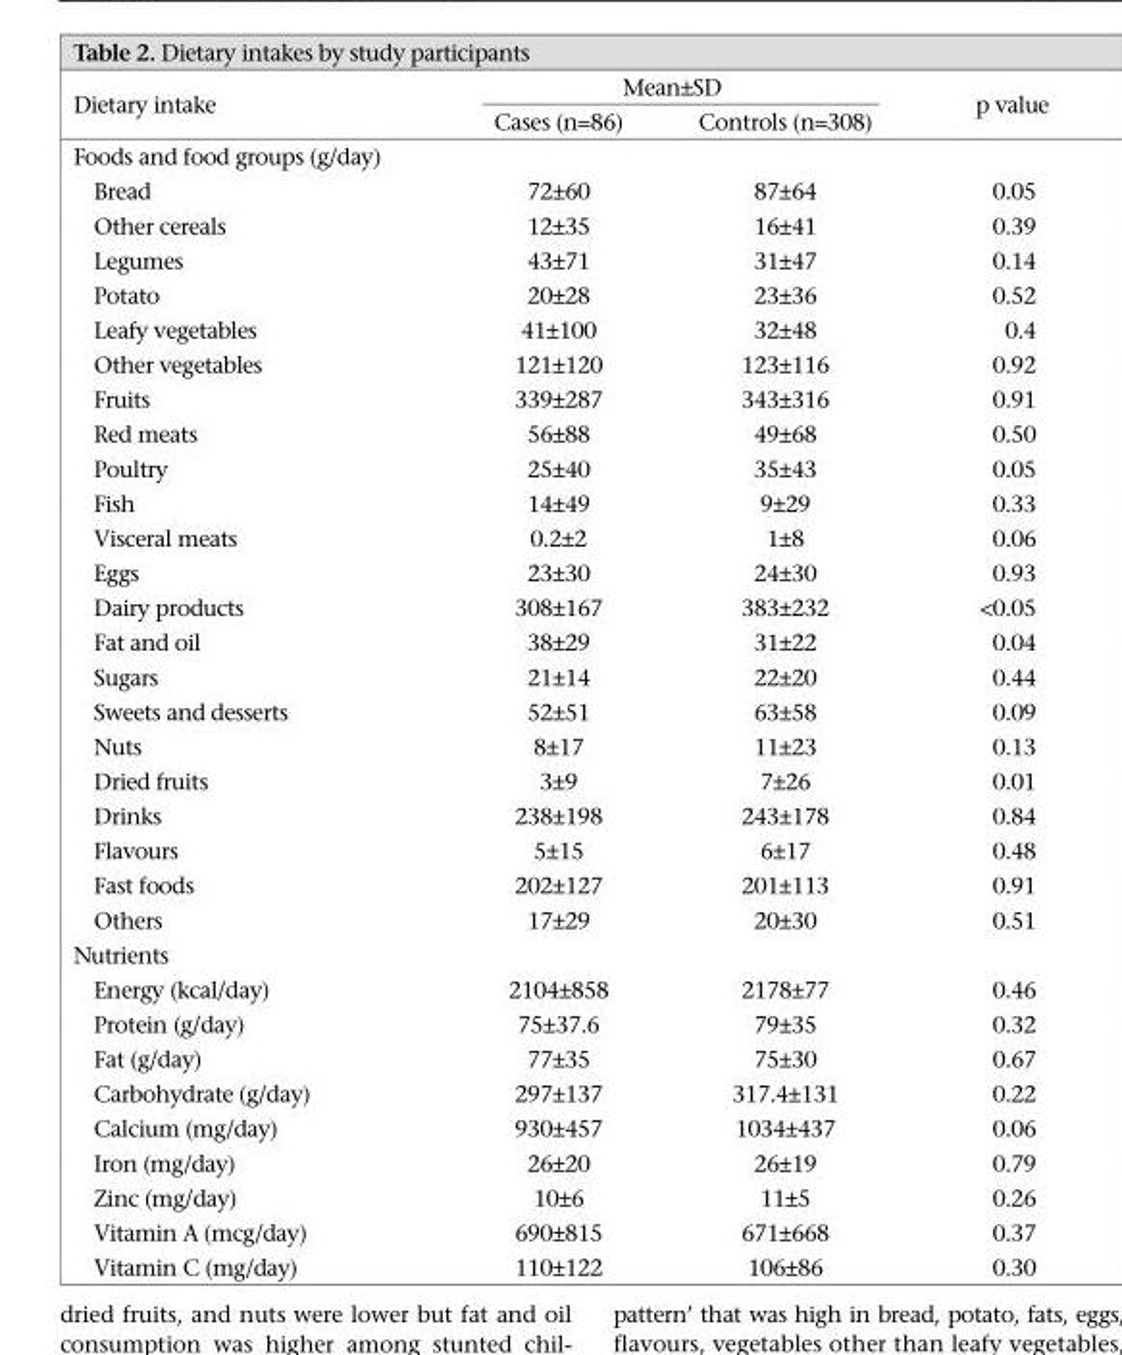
<table><thead><tr><td rowspan="2">Dietary intake</td><td colspan="2">Mean±SD</td><td rowspan="2">p value</td></tr><tr><td>Cases (n=86)</td><td>Controls (n=308)</td></tr></thead><tbody><tr><td colspan="4">Foods and food groups (g/day)</td></tr><tr><td>Bread</td><td>72±60</td><td>87±64</td><td>0.05</td></tr><tr><td>Other cereals</td><td>12±35</td><td>16±41</td><td>0.39</td></tr><tr><td>Legumes</td><td>43±71</td><td>31±47</td><td>0.14</td></tr><tr><td>Potato</td><td>20±28</td><td>23±36</td><td>0.52</td></tr><tr><td>Leafy vegetables</td><td>41±100</td><td>32±48</td><td>0.4</td></tr><tr><td>Other vegetables</td><td>121±120</td><td>123±116</td><td>0.92</td></tr><tr><td>Fruits</td><td>339±287</td><td>343±316</td><td>0.91</td></tr><tr><td>Red meats</td><td>56±88</td><td>49±68</td><td>0.50</td></tr><tr><td>Poultry</td><td>25±40</td><td>35±43</td><td>0.05</td></tr><tr><td>Fish</td><td>14±49</td><td>9±29</td><td>0.33</td></tr><tr><td>Visceral meats</td><td>0.2±2</td><td>1±8</td><td>0.06</td></tr><tr><td>Eggs</td><td>23±30</td><td>24±30</td><td>0.93</td></tr><tr><td>Dairy products</td><td>308±167</td><td>383±232</td><td>&lt;0.05</td></tr><tr><td>Fat and oil</td><td>38±29</td><td>31±22</td><td>0.04</td></tr><tr><td>Sugars</td><td>21±14</td><td>22±20</td><td>0.44</td></tr><tr><td>Sweets and desserts</td><td>52±51</td><td>63±58</td><td>0.09</td></tr><tr><td>Nuts</td><td>8±17</td><td>11±23</td><td>0.13</td></tr><tr><td>Dried fruits</td><td>3±9</td><td>7±26</td><td>0.01</td></tr><tr><td>Drinks</td><td>238±198</td><td>243±178</td><td>0.84</td></tr><tr><td>Flavours</td><td>5±15</td><td>6±17</td><td>0.48</td></tr><tr><td>Fast foods</td><td>202±127</td><td>201±113</td><td>0.91</td></tr><tr><td>Others</td><td>17±29</td><td>20±30</td><td>0.51</td></tr><tr><td colspan="4">Nutrients</td></tr><tr><td>Energy (kcal/day)</td><td>2104±858</td><td>2178±77</td><td>0.46</td></tr><tr><td>Protein (g/day)</td><td>75±37.6</td><td>79±35</td><td>0.32</td></tr><tr><td>Fat (g/day)</td><td>77±35</td><td>75±30</td><td>0.67</td></tr><tr><td>Carbohydrate (g/day)</td><td>297±137</td><td>317.4±131</td><td>0.22</td></tr><tr><td>Calcium (mg/day)</td><td>930±457</td><td>1034±437</td><td>0.06</td></tr><tr><td>Iron (mg/day)</td><td>26±20</td><td>26±19</td><td>0.79</td></tr><tr><td>Zinc (mg/day)</td><td>10±6</td><td>11±5</td><td>0.26</td></tr><tr><td>Vitamin A (mcg/day)</td><td>690±815</td><td>671±668</td><td>0.37</td></tr><tr><td>Vitamin C (mg/day)</td><td>110±122</td><td>106±86</td><td>0.30</td></tr></tbody></table>